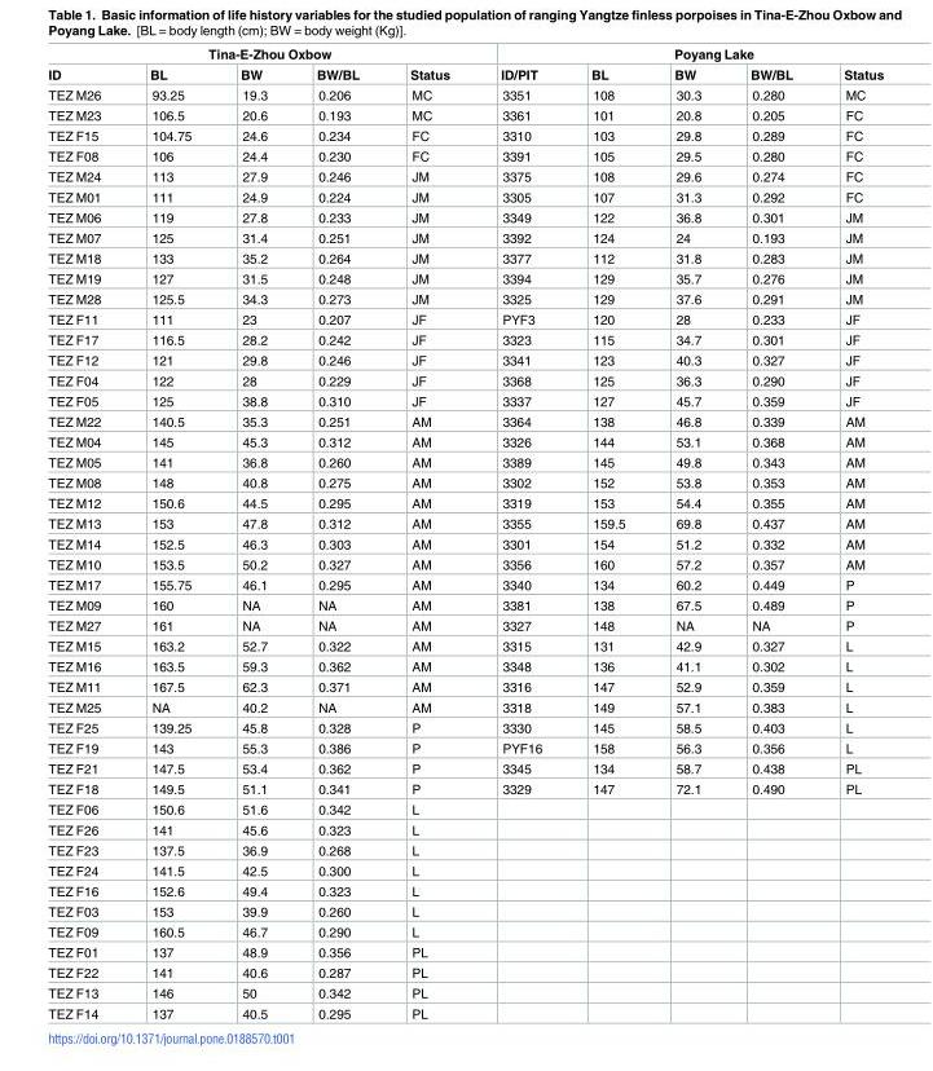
<table><thead><tr><td colspan="5">Tina-E-Zhou Oxbow</td><td colspan="5">Poyang Lake</td></tr><tr><td>ID</td><td>BL</td><td>BW</td><td>BW/BL</td><td>Status</td><td>ID/PIT</td><td>BL</td><td>BW</td><td>BW/BL</td><td>Status</td></tr></thead><tbody><tr><td>TEZ M26</td><td>93.25</td><td>19.3</td><td>0.206</td><td>MC</td><td>3351</td><td>108</td><td>30.3</td><td>0.280</td><td>MC</td></tr><tr><td>TEZ M23</td><td>106.5</td><td>20.6</td><td>0.193</td><td>MC</td><td>3361</td><td>101</td><td>20.8</td><td>0.205</td><td>FC</td></tr><tr><td>TEZ F15</td><td>104.75</td><td>24.6</td><td>0.234</td><td>FC</td><td>3310</td><td>103</td><td>29.8</td><td>0.289</td><td>FC</td></tr><tr><td>TEZ F08</td><td>106</td><td>24.4</td><td>0.230</td><td>FC</td><td>3391</td><td>105</td><td>29.5</td><td>0.280</td><td>FC</td></tr><tr><td>TEZ M24</td><td>113</td><td>27.9</td><td>0.246</td><td>JM</td><td>3375</td><td>108</td><td>29.6</td><td>0.274</td><td>FC</td></tr><tr><td>TEZ M01</td><td>111</td><td>24.9</td><td>0.224</td><td>JM</td><td>3305</td><td>107</td><td>31.3</td><td>0.292</td><td>FC</td></tr><tr><td>TEZ M06</td><td>119</td><td>27.8</td><td>0.233</td><td>JM</td><td>3349</td><td>122</td><td>36.8</td><td>0.301</td><td>JM</td></tr><tr><td>TEZ M07</td><td>125</td><td>31.4</td><td>0.251</td><td>JM</td><td>3392</td><td>124</td><td>24</td><td>0.193</td><td>JM</td></tr><tr><td>TEZ M18</td><td>133</td><td>35.2</td><td>0.264</td><td>JM</td><td>3377</td><td>112</td><td>31.8</td><td>0.283</td><td>JM</td></tr><tr><td>TEZ M19</td><td>127</td><td>31.5</td><td>0.248</td><td>JM</td><td>3394</td><td>129</td><td>35.7</td><td>0.276</td><td>JM</td></tr><tr><td>TEZ M28</td><td>125.5</td><td>34.3</td><td>0.273</td><td>JM</td><td>3325</td><td>129</td><td>37.6</td><td>0.291</td><td>JM</td></tr><tr><td>TEZ F11</td><td>111</td><td>23</td><td>0.207</td><td>JF</td><td>PYF3</td><td>120</td><td>28</td><td>0.233</td><td>JF</td></tr><tr><td>TEZ F17</td><td>116.5</td><td>28.2</td><td>0.242</td><td>JF</td><td>3323</td><td>115</td><td>34.7</td><td>0.301</td><td>JF</td></tr><tr><td>TEZ F12</td><td>121</td><td>29.8</td><td>0.246</td><td>JF</td><td>3341</td><td>123</td><td>40.3</td><td>0.327</td><td>JF</td></tr><tr><td>TEZ F04</td><td>122</td><td>28</td><td>0.229</td><td>JF</td><td>3368</td><td>125</td><td>36.3</td><td>0.290</td><td>JF</td></tr><tr><td>TEZ F05</td><td>125</td><td>38.8</td><td>0.310</td><td>JF</td><td>3337</td><td>127</td><td>45.7</td><td>0.359</td><td>JF</td></tr><tr><td>TEZ M22</td><td>140.5</td><td>35.3</td><td>0.251</td><td>AM</td><td>3364</td><td>138</td><td>46.8</td><td>0.339</td><td>AM</td></tr><tr><td>TEZ M04</td><td>145</td><td>45.3</td><td>0.312</td><td>AM</td><td>3326</td><td>144</td><td>53.1</td><td>0.368</td><td>AM</td></tr><tr><td>TEZ M05</td><td>141</td><td>36.8</td><td>0.260</td><td>AM</td><td>3389</td><td>145</td><td>49.8</td><td>0.343</td><td>AM</td></tr><tr><td>TEZ M08</td><td>148</td><td>40.8</td><td>0.275</td><td>AM</td><td>3302</td><td>152</td><td>53.8</td><td>0.353</td><td>AM</td></tr><tr><td>TEZ M12</td><td>150.6</td><td>44.5</td><td>0.295</td><td>AM</td><td>3319</td><td>153</td><td>54.4</td><td>0.355</td><td>AM</td></tr><tr><td>TEZ M13</td><td>153</td><td>47.8</td><td>0.312</td><td>AM</td><td>3355</td><td>159.5</td><td>69.8</td><td>0.437</td><td>AM</td></tr><tr><td>TEZ M14</td><td>152.5</td><td>46.3</td><td>0.303</td><td>AM</td><td>3301</td><td>154</td><td>51.2</td><td>0.332</td><td>AM</td></tr><tr><td>TEZ M10</td><td>153.5</td><td>50.2</td><td>0.327</td><td>AM</td><td>3356</td><td>160</td><td>57.2</td><td>0.357</td><td>AM</td></tr><tr><td>TEZ M17</td><td>155.75</td><td>46.1</td><td>0.295</td><td>AM</td><td>3340</td><td>134</td><td>60.2</td><td>0.449</td><td>P</td></tr><tr><td>TEZ M09</td><td>160</td><td>NA</td><td>NA</td><td>AM</td><td>3381</td><td>138</td><td>67.5</td><td>0.489</td><td>P</td></tr><tr><td>TEZ M27</td><td>161</td><td>NA</td><td>NA</td><td>AM</td><td>3327</td><td>148</td><td>NA</td><td>NA</td><td>P</td></tr><tr><td>TEZ M15</td><td>163.2</td><td>52.7</td><td>0.322</td><td>AM</td><td>3315</td><td>131</td><td>42.9</td><td>0.327</td><td>L</td></tr><tr><td>TEZ M16</td><td>163.5</td><td>59.3</td><td>0.362</td><td>AM</td><td>3348</td><td>136</td><td>41.1</td><td>0.302</td><td>L</td></tr><tr><td>TEZ M11</td><td>167.5</td><td>62.3</td><td>0.371</td><td>AM</td><td>3316</td><td>147</td><td>52.9</td><td>0.359</td><td>L</td></tr><tr><td>TEZ M25</td><td>NA</td><td>40.2</td><td>NA</td><td>AM</td><td>3318</td><td>149</td><td>57.1</td><td>0.383</td><td>L</td></tr><tr><td>TEZ F25</td><td>139.25</td><td>45.8</td><td>0.328</td><td>P</td><td>3330</td><td>145</td><td>58.5</td><td>0.403</td><td>L</td></tr><tr><td>TEZ F19</td><td>143</td><td>55.3</td><td>0.386</td><td>P</td><td>PYF16</td><td>158</td><td>56.3</td><td>0.356</td><td>L</td></tr><tr><td>TEZ F21</td><td>147.5</td><td>53.4</td><td>0.362</td><td>P</td><td>3345</td><td>134</td><td>58.7</td><td>0.438</td><td>PL</td></tr><tr><td>TEZ F18</td><td>149.5</td><td>51.1</td><td>0.341</td><td>P</td><td>3329</td><td>147</td><td>72.1</td><td>0.490</td><td>PL</td></tr><tr><td>TEZ F06</td><td>150.6</td><td>51.6</td><td>0.342</td><td>L</td><td></td><td></td><td></td><td></td><td></td></tr><tr><td>TEZ F26</td><td>141</td><td>45.6</td><td>0.323</td><td>L</td><td></td><td></td><td></td><td></td><td></td></tr><tr><td>TEZ F23</td><td>137.5</td><td>36.9</td><td>0.268</td><td>L</td><td></td><td></td><td></td><td></td><td></td></tr><tr><td>TEZ F24</td><td>141.5</td><td>42.5</td><td>0.300</td><td>L</td><td></td><td></td><td></td><td></td><td></td></tr><tr><td>TEZ F16</td><td>152.6</td><td>49.4</td><td>0.323</td><td>L</td><td></td><td></td><td></td><td></td><td></td></tr><tr><td>TEZ F03</td><td>153</td><td>39.9</td><td>0.260</td><td>L</td><td></td><td></td><td></td><td></td><td></td></tr><tr><td>TEZ F09</td><td>160.5</td><td>46.7</td><td>0.290</td><td>L</td><td></td><td></td><td></td><td></td><td></td></tr><tr><td>TEZ F01</td><td>137</td><td>48.9</td><td>0.356</td><td>PL</td><td></td><td></td><td></td><td></td><td></td></tr><tr><td>TEZ F22</td><td>141</td><td>40.6</td><td>0.287</td><td>PL</td><td></td><td></td><td></td><td></td><td></td></tr><tr><td>TEZ F13</td><td>146</td><td>50</td><td>0.342</td><td>PL</td><td></td><td></td><td></td><td></td><td></td></tr><tr><td>TEZ F14</td><td>137</td><td>40.5</td><td>0.295</td><td>PL</td><td></td><td></td><td></td><td></td><td></td></tr></tbody></table>